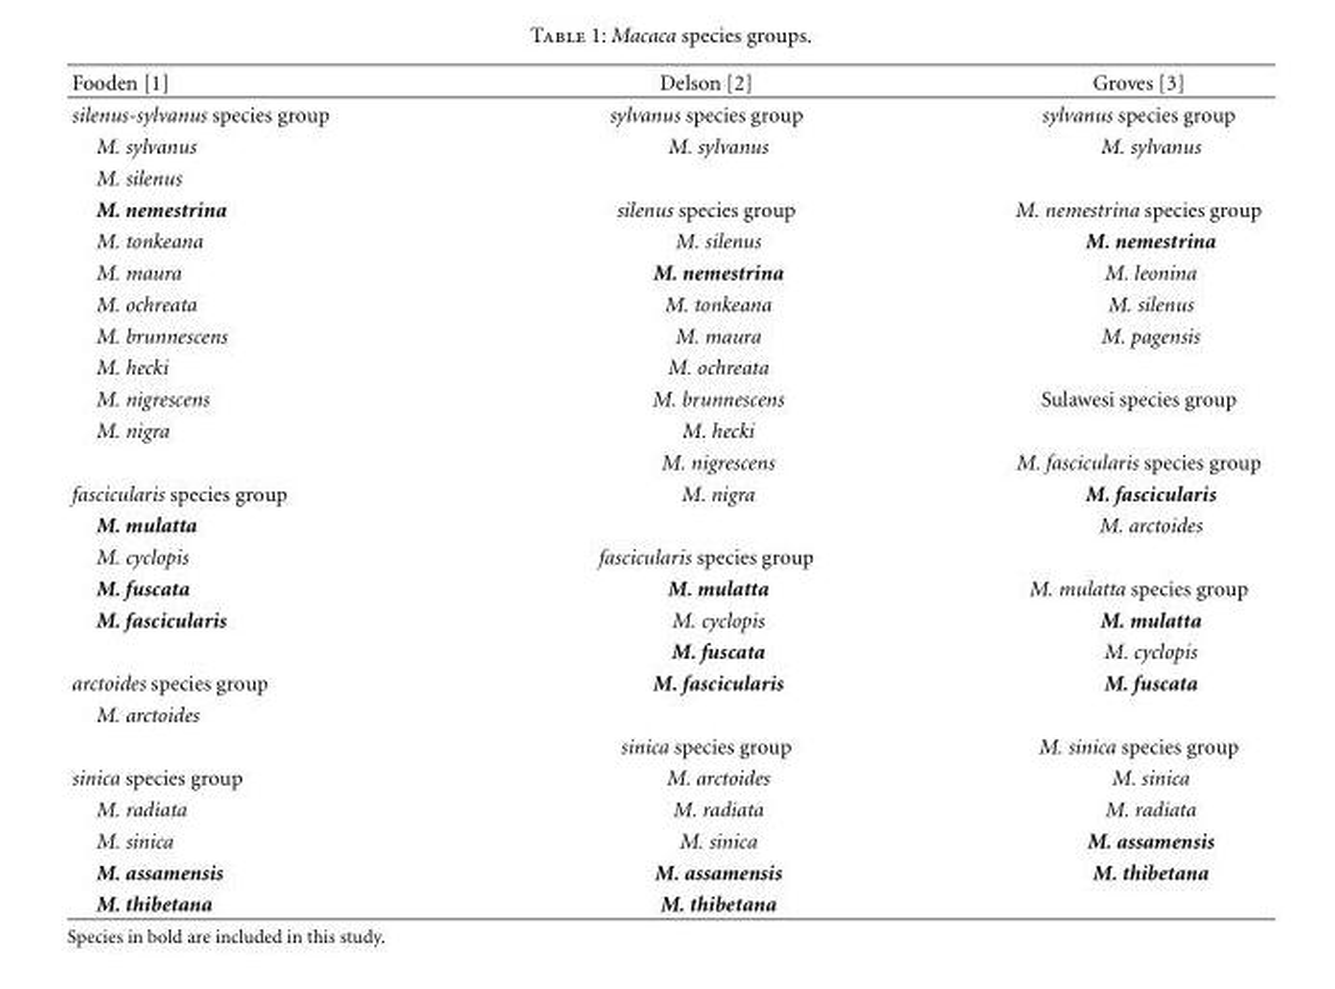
<table><thead><tr><td>Fooden [1]</td><td>Delson [2]</td><td>Groves [3]</td></tr></thead><tbody><tr><td>silenus-sylvanus species group</td><td>sylvanus species group</td><td>sylvanus species group</td></tr><tr><td>M. sylvanus</td><td>M. sylvanus</td><td>M. sylvanus</td></tr><tr><td colspan="3">M. silenus</td></tr><tr><td>M. nemestrina</td><td>silenus species group</td><td>M. nemestrina species group</td></tr><tr><td>M. tonkeana</td><td>M. silenus</td><td>M. nemestrina</td></tr><tr><td>M. maura</td><td>M. nemestrina</td><td>M. leonina</td></tr><tr><td>M. ochreata</td><td>M. tonkeana</td><td>M. silenus</td></tr><tr><td>M. brunnescens</td><td>M. maura</td><td>M. pagensis</td></tr><tr><td>M. hecki</td><td>M. ochreata</td><td></td></tr><tr><td>M. nigrescens</td><td>M. brunnescens</td><td>Sulawesi species group</td></tr><tr><td rowspan="2">M. nigra</td><td>M. hecki</td><td></td></tr><tr><td>M. nigrescens</td><td>M. fascicularis species group</td></tr><tr><td>fascicularis species group</td><td>M. nigra</td><td>M. fascicularis</td></tr><tr><td>M. mulatta</td><td></td><td>M. arctoides</td></tr><tr><td>M. cyclopis</td><td>fascicularis species group</td><td></td></tr><tr><td>M. fuscata</td><td>M. mulatta</td><td>M. mulatta species group</td></tr><tr><td rowspan="2">M. fascicularis</td><td>M. cyclopis</td><td>M. mulatta</td></tr><tr><td>M. fuscata</td><td>M. cyclopis</td></tr><tr><td>arctoides species group</td><td>M. fascicularis</td><td>M. fuscata</td></tr><tr><td colspan="3">M. arctoides</td></tr><tr><td></td><td>sinica species group</td><td>M. sinica species group</td></tr><tr><td>sinica species group</td><td>M. arctoides</td><td>M. sinica</td></tr><tr><td>M. radiata</td><td>M. radiata</td><td>M. radiata</td></tr><tr><td>M. sinica</td><td>M. sinica</td><td>M. assamensis</td></tr><tr><td>M. assamensis</td><td>M. assamensis</td><td>M. thibetana</td></tr><tr><td>M. thibetana</td><td>M. thibetana</td><td></td></tr></tbody></table>